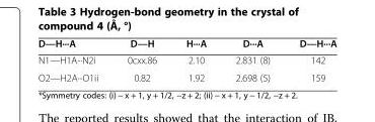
<table><thead><tr><td>D—H···A</td><td>D—H</td><td>H···A</td><td>D···A</td><td>D—H···A</td></tr></thead><tbody><tr><td>N1—H1A···N2i</td><td>0cxx.86</td><td>2.10</td><td>2.831 (8)</td><td>142</td></tr><tr><td>O2—H2A···O1ii</td><td>0.82</td><td>1.92</td><td>2.698 (5)</td><td>159</td></tr></tbody></table>